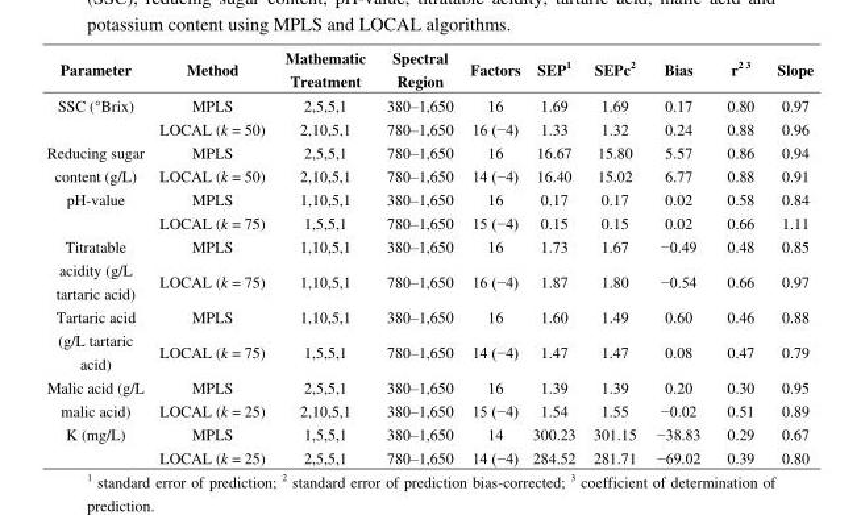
<table><thead><tr><td>Parameter</td><td>Method</td><td>Mathematic Treatment</td><td>Spectral Region</td><td>Factors</td><td>SEP<sup>1</sup></td><td>SEPc<sup>2</sup></td><td>Bias</td><td>r<sup>2 3</sup></td><td>Slope</td></tr></thead><tbody><tr><td rowspan="2">SSC (°Brix)</td><td>MPLS</td><td>2,5,5,1</td><td>380–1,650</td><td>16</td><td>1.69</td><td>1.69</td><td>0.17</td><td>0.80</td><td>0.97</td></tr><tr><td>LOCAL (k = 50)</td><td>2,10,5,1</td><td>780–1,650</td><td>16 (−4)</td><td>1.33</td><td>1.32</td><td>0.24</td><td>0.88</td><td>0.96</td></tr><tr><td rowspan="2">Reducing sugar content (g/L)</td><td>MPLS</td><td>2,5,5,1</td><td>780–1,650</td><td>16</td><td>16.67</td><td>15.80</td><td>5.57</td><td>0.86</td><td>0.94</td></tr><tr><td>LOCAL (k = 50)</td><td>2,10,5,1</td><td>780–1,650</td><td>14 (−4)</td><td>16.40</td><td>15.02</td><td>6.77</td><td>0.88</td><td>0.91</td></tr><tr><td rowspan="2">pH-value</td><td>MPLS</td><td>1,10,5,1</td><td>380–1,650</td><td>16</td><td>0.17</td><td>0.17</td><td>0.02</td><td>0.58</td><td>0.84</td></tr><tr><td>LOCAL (k = 75)</td><td>1,5,5,1</td><td>780–1,650</td><td>15 (−4)</td><td>0.15</td><td>0.15</td><td>0.02</td><td>0.66</td><td>1.11</td></tr><tr><td rowspan="2">Titratable acidity (g/L tartaric acid)</td><td>MPLS</td><td>1,10,5,1</td><td>380–1,650</td><td>16</td><td>1.73</td><td>1.67</td><td>−0.49</td><td>0.48</td><td>0.85</td></tr><tr><td>LOCAL (k = 75)</td><td>1,10,5,1</td><td>780–1,650</td><td>16 (−4)</td><td>1.87</td><td>1.80</td><td>−0.54</td><td>0.66</td><td>0.97</td></tr><tr><td rowspan="2">Tartaric acid (g/L tartaric acid)</td><td>MPLS</td><td>1,10,5,1</td><td>380–1,650</td><td>16</td><td>1.60</td><td>1.49</td><td>0.60</td><td>0.46</td><td>0.88</td></tr><tr><td>LOCAL (k = 75)</td><td>1,5,5,1</td><td>780–1,650</td><td>14 (−4)</td><td>1.47</td><td>1.47</td><td>0.08</td><td>0.47</td><td>0.79</td></tr><tr><td rowspan="2">Malic acid (g/L malic acid)</td><td>MPLS</td><td>2,5,5,1</td><td>380–1,650</td><td>16</td><td>1.39</td><td>1.39</td><td>0.20</td><td>0.30</td><td>0.95</td></tr><tr><td>LOCAL (k = 25)</td><td>2,10,5,1</td><td>380–1,650</td><td>15 (−4)</td><td>1.54</td><td>1.55</td><td>−0.02</td><td>0.51</td><td>0.89</td></tr><tr><td rowspan="2">K (mg/L)</td><td>MPLS</td><td>1,5,5,1</td><td>380–1,650</td><td>14</td><td>300.23</td><td>301.15</td><td>−38.83</td><td>0.29</td><td>0.67</td></tr><tr><td>LOCAL (k = 25)</td><td>2,5,5,1</td><td>780–1,650</td><td>14 (−4)</td><td>284.52</td><td>281.71</td><td>−69.02</td><td>0.39</td><td>0.80</td></tr></tbody></table>